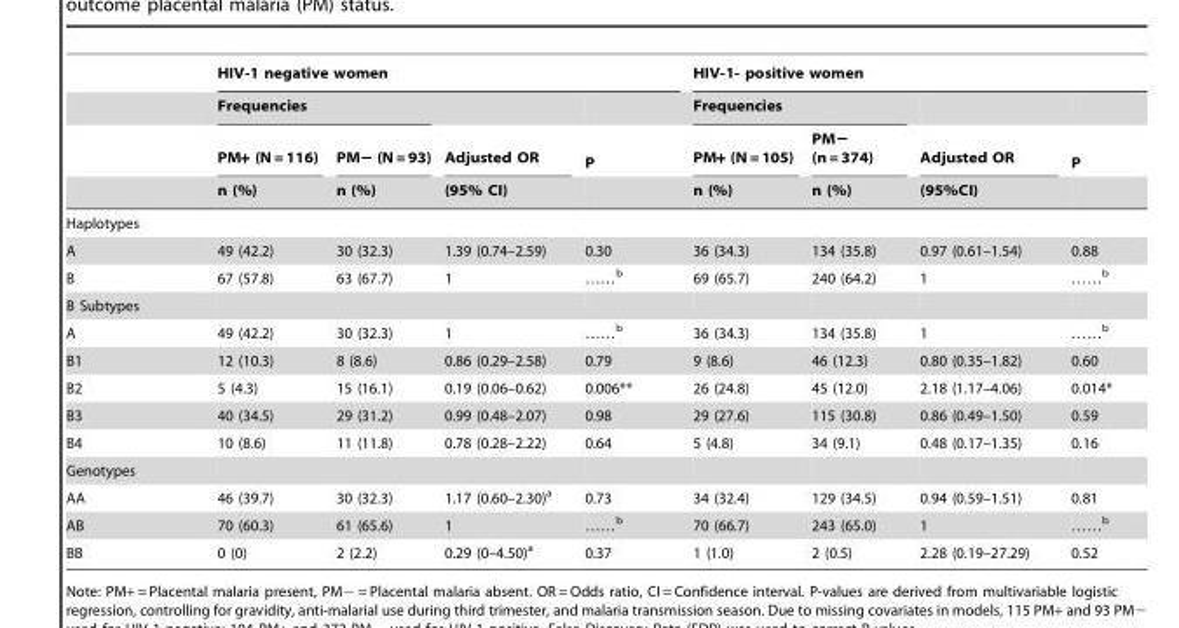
<table><thead><tr><td rowspan="4"></td><td colspan="4">HIV-1 negative women</td><td colspan="4">HIV-1- positive women</td></tr><tr><td colspan="2">Frequencies</td><td rowspan="3">Adjusted OR (95% CI)</td><td rowspan="3">P</td><td colspan="2">Frequencies</td><td rowspan="3">Adjusted OR (95%CI)</td><td rowspan="3">P</td></tr><tr><td rowspan="2">PM+ (N = 116) n (%)</td><td rowspan="2">PM− (N = 93) n (%)</td><td rowspan="2">PM+ (N = 105) n (%)</td><td rowspan="2">PM− (n = 374) n (%)</td></tr><tr></tr></thead><tbody><tr><td colspan="9">Haplotypes</td></tr><tr><td>A</td><td>49 (42.2)</td><td>30 (32.3)</td><td>1.39 (0.74–2.59)</td><td>0.30</td><td>36 (34.3)</td><td>134 (35.8)</td><td>0.97 (0.61–1.54)</td><td>0.88</td></tr><tr><td>B</td><td>67 (57.8)</td><td>63 (67.7)</td><td>1</td><td>……<sup>b</sup></td><td>69 (65.7)</td><td>240 (64.2)</td><td>1</td><td>……<sup>b</sup></td></tr><tr><td colspan="9">B Subtypes</td></tr><tr><td>A</td><td>49 (42.2)</td><td>30 (32.3)</td><td>1</td><td>……<sup>b</sup></td><td>36 (34.3)</td><td>134 (35.8)</td><td>1</td><td>……<sup>b</sup></td></tr><tr><td>B1</td><td>12 (10.3)</td><td>8 (8.6)</td><td>0.86 (0.29–2.58)</td><td>0.79</td><td>9 (8.6)</td><td>46 (12.3)</td><td>0.80 (0.35–1.82)</td><td>0.60</td></tr><tr><td>B2</td><td>5 (4.3)</td><td>15 (16.1)</td><td>0.19 (0.06–0.62)</td><td>0.006**</td><td>26 (24.8)</td><td>45 (12.0)</td><td>2.18 (1.17–4.06)</td><td>0.014*</td></tr><tr><td>B3</td><td>40 (34.5)</td><td>29 (31.2)</td><td>0.99 (0.48–2.07)</td><td>0.98</td><td>29 (27.6)</td><td>115 (30.8)</td><td>0.86 (0.49–1.50)</td><td>0.59</td></tr><tr><td>B4</td><td>10 (8.6)</td><td>11 (11.8)</td><td>0.78 (0.28–2.22)</td><td>0.64</td><td>5 (4.8)</td><td>34 (9.1)</td><td>0.48 (0.17–1.35)</td><td>0.16</td></tr><tr><td colspan="9">Genotypes</td></tr><tr><td>AA</td><td>46 (39.7)</td><td>30 (32.3)</td><td>1.17 (0.60–2.30)<sup>a</sup></td><td>0.73</td><td>34 (32.4)</td><td>129 (34.5)</td><td>0.94 (0.59–1.51)</td><td>0.81</td></tr><tr><td>AB</td><td>70 (60.3)</td><td>61 (65.6)</td><td>1</td><td>……<sup>b</sup></td><td>70 (66.7)</td><td>243 (65.0)</td><td>1</td><td>……<sup>b</sup></td></tr><tr><td>BB</td><td>0 (0)</td><td>2 (2.2)</td><td>0.29 (0–4.50)<sup>a</sup></td><td>0.37</td><td>1 (1.0)</td><td>2 (0.5)</td><td>2.28 (0.19–27.29)</td><td>0.52</td></tr></tbody></table>